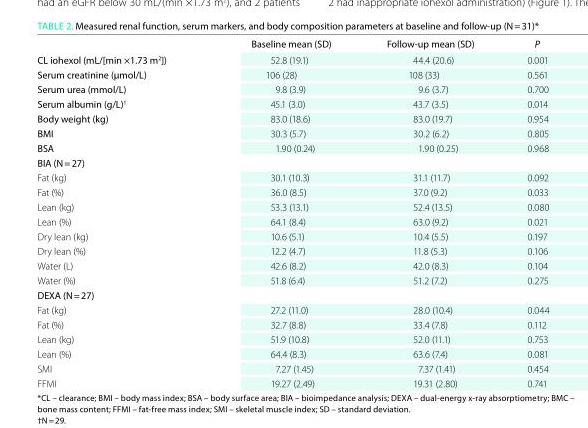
<table><thead><tr><td></td><td>Baseline mean (SD)</td><td>Follow-up mean (SD)</td><td>P</td></tr></thead><tbody><tr><td>CL iohexol (mL/[min ×1.73 m<sup>2</sup>])</td><td>52.8 (19.1)</td><td>44.4 (20.6)</td><td>0.001</td></tr><tr><td>Serum creatinine (μmol/L)</td><td>106 (28)</td><td>108 (33)</td><td>0.561</td></tr><tr><td>Serum urea (mmol/L)</td><td>9.8 (3.9)</td><td>9.6 (3.7)</td><td>0.700</td></tr><tr><td>Serum albumin (g/L)<sup>†</sup></td><td>45.1 (3.0)</td><td>43.7 (3.5)</td><td>0.014</td></tr><tr><td>Body weight (kg)</td><td>83.0 (18.6)</td><td>83.0 (19.7)</td><td>0.954</td></tr><tr><td>BMI</td><td>30.3 (5.7)</td><td>30.2 (6.2)</td><td>0.805</td></tr><tr><td>BSA</td><td>1.90 (0.24)</td><td>1.90 (0.25)</td><td>0.968</td></tr><tr><td colspan="4">BIA (n = 27)</td></tr><tr><td>Fat (kg)</td><td>30.1 (10.3)</td><td>31.1 (11.7)</td><td>0.092</td></tr><tr><td>Fat (%)</td><td>36.0 (8.5)</td><td>37.0 (9.2)</td><td>0.033</td></tr><tr><td>Lean (kg)</td><td>53.3 (13.1)</td><td>52.4 (13.5)</td><td>0.080</td></tr><tr><td>Lean (%)</td><td>64.1 (8.4)</td><td>63.0 (9.2)</td><td>0.021</td></tr><tr><td>Dry lean (kg)</td><td>10.6 (5.1)</td><td>10.4 (5.5)</td><td>0.197</td></tr><tr><td>Dry lean (%)</td><td>12.2 (4.7)</td><td>11.8 (5.3)</td><td>0.106</td></tr><tr><td>Water (L)</td><td>42.6 (8.2)</td><td>42.0 (8.3)</td><td>0.104</td></tr><tr><td>Water (%)</td><td>51.8 (6.4)</td><td>51.2 (7.2)</td><td>0.275</td></tr><tr><td colspan="4">DeXA (n = 27)</td></tr><tr><td>Fat (kg)</td><td>27.2 (11.0)</td><td>28.0 (10.4)</td><td>0.044</td></tr><tr><td>Fat (%)</td><td>32.7 (8.8)</td><td>33.4 (7.8)</td><td>0.112</td></tr><tr><td>Lean (kg)</td><td>51.9 (10.8)</td><td>52.0 (11.1)</td><td>0.753</td></tr><tr><td>Lean (%)</td><td>64.4 (8.3)</td><td>63.6 (7.4)</td><td>0.081</td></tr><tr><td>SMI</td><td>7.27 (1.45)</td><td>7.37 (1.41)</td><td>0.454</td></tr><tr><td>FFMI</td><td>19.27 (2.49)</td><td>19.31 (2.80)</td><td>0.741</td></tr></tbody></table>